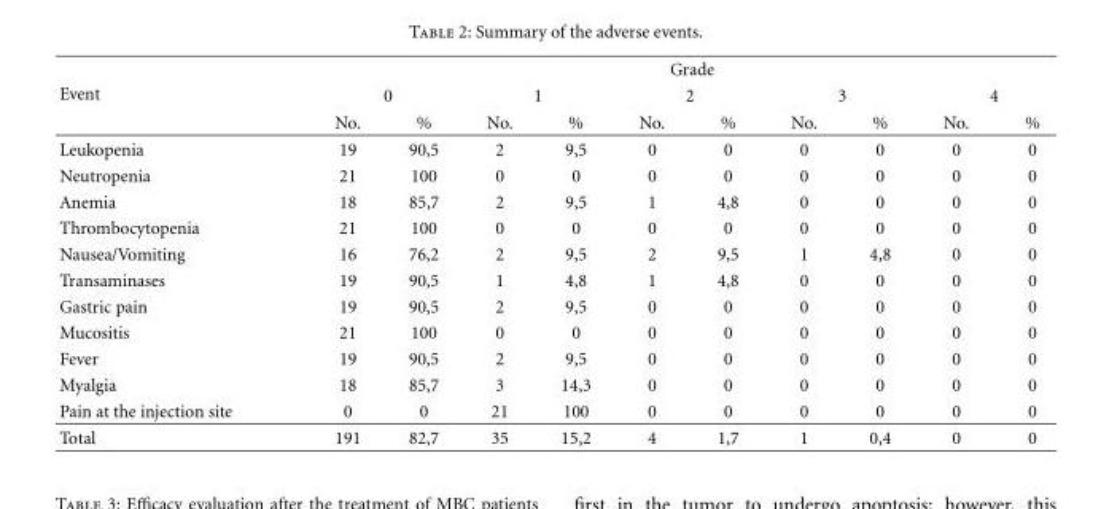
<table><thead><tr><td rowspan="3">Event</td><td colspan="10">Grade</td></tr><tr><td colspan="2">0</td><td colspan="2">1</td><td colspan="2">2</td><td colspan="2">3</td><td colspan="2">4</td></tr><tr><td>No.</td><td>%</td><td>No.</td><td>%</td><td>No.</td><td>%</td><td>No.</td><td>%</td><td>No.</td><td>%</td></tr></thead><tbody><tr><td>Leukopenia</td><td>19</td><td>90,5</td><td>2</td><td>9,5</td><td>0</td><td>0</td><td>0</td><td>0</td><td>0</td><td>0</td></tr><tr><td>Neutropenia</td><td>21</td><td>100</td><td>0</td><td>0</td><td>0</td><td>0</td><td>0</td><td>0</td><td>0</td><td>0</td></tr><tr><td>Anemia</td><td>18</td><td>85,7</td><td>2</td><td>9,5</td><td>1</td><td>4,8</td><td>0</td><td>0</td><td>0</td><td>0</td></tr><tr><td>Thrombocytopenia</td><td>21</td><td>100</td><td>0</td><td>0</td><td>0</td><td>0</td><td>0</td><td>0</td><td>0</td><td>0</td></tr><tr><td>Nausea/Vomiting</td><td>16</td><td>76,2</td><td>2</td><td>9,5</td><td>2</td><td>9,5</td><td>1</td><td>4,8</td><td>0</td><td>0</td></tr><tr><td>Transaminases</td><td>19</td><td>90,5</td><td>1</td><td>4,8</td><td>1</td><td>4,8</td><td>0</td><td>0</td><td>0</td><td>0</td></tr><tr><td>Gastric pain</td><td>19</td><td>90,5</td><td>2</td><td>9,5</td><td>0</td><td>0</td><td>0</td><td>0</td><td>0</td><td>0</td></tr><tr><td>Mucositis</td><td>21</td><td>100</td><td>0</td><td>0</td><td>0</td><td>0</td><td>0</td><td>0</td><td>0</td><td>0</td></tr><tr><td>Fever</td><td>19</td><td>90,5</td><td>2</td><td>9,5</td><td>0</td><td>0</td><td>0</td><td>0</td><td>0</td><td>0</td></tr><tr><td>Myalgia</td><td>18</td><td>85,7</td><td>3</td><td>14,3</td><td>0</td><td>0</td><td>0</td><td>0</td><td>0</td><td>0</td></tr><tr><td>Pain at the injection site</td><td>0</td><td>0</td><td>21</td><td>100</td><td>0</td><td>0</td><td>0</td><td>0</td><td>0</td><td>0</td></tr><tr><td>Total</td><td>191</td><td>82,7</td><td>35</td><td>15,2</td><td>4</td><td>1,7</td><td>1</td><td>0,4</td><td>0</td><td>0</td></tr></tbody></table>